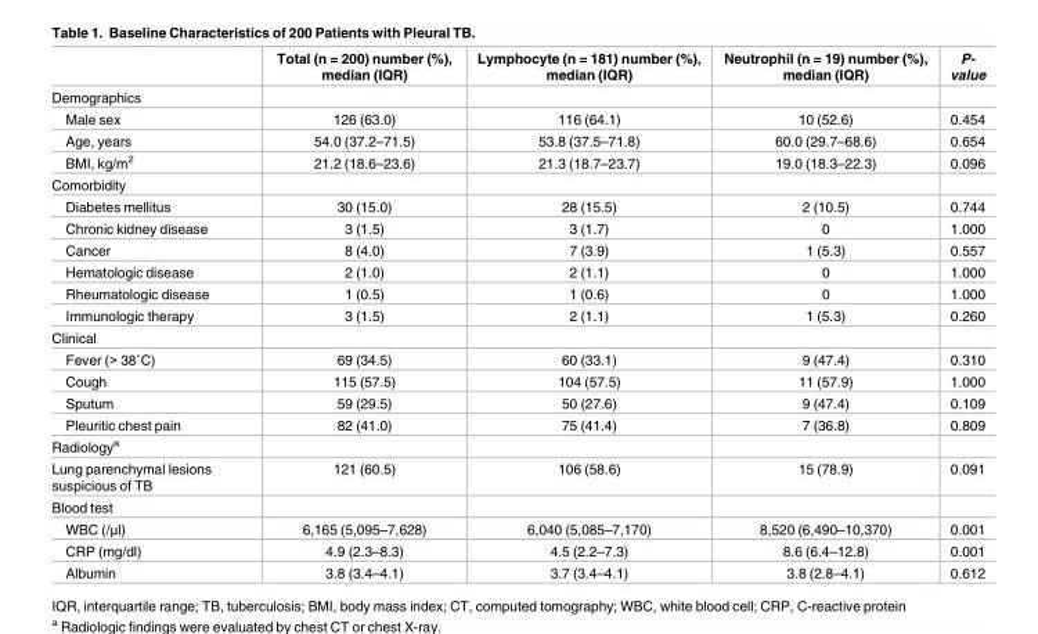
<table><thead><tr><td></td><td>Total (n = 200) number (%), median (IQR)</td><td>Lymphocyte (n = 181) number (%), median (IQR)</td><td>Neutrophil (n = 19) number (%), median (IQR)</td><td>P- value</td></tr></thead><tbody><tr><td colspan="5">Demographics</td></tr><tr><td>Male sex</td><td>126 (63.0)</td><td>116 (64.1)</td><td>10 (52.6)</td><td>0.454</td></tr><tr><td>Age, years</td><td>54.0 (37.2–71.5)</td><td>53.8 (37.5–71.8)</td><td>60.0 (29.7–68.6)</td><td>0.654</td></tr><tr><td>BMI, kg/m<sup>2</sup></td><td>21.2 (18.6–23.6)</td><td>21.3 (18.7–23.7)</td><td>19.0 (18.3–22.3)</td><td>0.096</td></tr><tr><td colspan="5">Comorbidity</td></tr><tr><td>Diabetes mellitus</td><td>30 (15.0)</td><td>28 (15.5)</td><td>2 (10.5)</td><td>0.744</td></tr><tr><td>Chronic kidney disease</td><td>3 (1.5)</td><td>3 (1.7)</td><td>0</td><td>1.000</td></tr><tr><td>Cancer</td><td>8 (4.0)</td><td>7 (3.9)</td><td>1 (5.3)</td><td>0.557</td></tr><tr><td>Hematologic disease</td><td>2 (1.0)</td><td>2 (1.1)</td><td>0</td><td>1.000</td></tr><tr><td>Rheumatologic disease</td><td>1 (0.5)</td><td>1 (0.6)</td><td>0</td><td>1.000</td></tr><tr><td>Immunologic therapy</td><td>3 (1.5)</td><td>2 (1.1)</td><td>1 (5.3)</td><td>0.260</td></tr><tr><td colspan="5">Clinical</td></tr><tr><td>Fever (&gt; 38˚C)</td><td>69 (34.5)</td><td>60 (33.1)</td><td>9 (47.4)</td><td>0.310</td></tr><tr><td>Cough</td><td>115 (57.5)</td><td>104 (57.5)</td><td>11 (57.9)</td><td>1.000</td></tr><tr><td>Sputum</td><td>59 (29.5)</td><td>50 (27.6)</td><td>9 (47.4)</td><td>0.109</td></tr><tr><td>Pleuritic chest pain</td><td>82 (41.0)</td><td>75 (41.4)</td><td>7 (36.8)</td><td>0.809</td></tr><tr><td colspan="5">Radiology<sup>a</sup></td></tr><tr><td>Lung parenchymal lesions suspicious of TB</td><td>121 (60.5)</td><td>106 (58.6)</td><td>15 (78.9)</td><td>0.091</td></tr><tr><td colspan="5">Blood test</td></tr><tr><td>WBC (/μl)</td><td>6,165 (5,095–7,628)</td><td>6,040 (5,085–7,170)</td><td>8,520 (6,490–10,370)</td><td>0.001</td></tr><tr><td>CRP (mg/dl)</td><td>4.9 (2.3–8.3)</td><td>4.5 (2.2–7.3)</td><td>8.6 (6.4–12.8)</td><td>0.001</td></tr><tr><td>Albumin</td><td>3.8 (3.4–4.1)</td><td>3.7 (3.4–4.1)</td><td>3.8 (2.8–4.1)</td><td>0.612</td></tr></tbody></table>